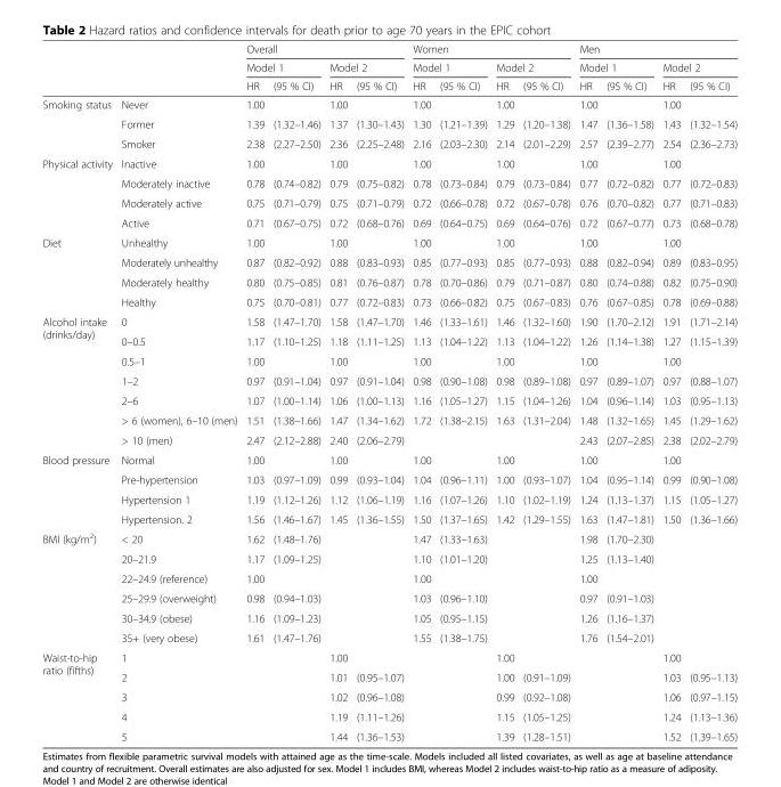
<table><thead><tr><td rowspan="3"></td><td rowspan="3"></td><td colspan="4">Overall</td><td colspan="4">Women</td><td colspan="4">Men</td></tr><tr><td colspan="2">Model 1</td><td colspan="2">Model 2</td><td colspan="2">Model 1</td><td colspan="2">Model 2</td><td colspan="2">Model 1</td><td colspan="2">Model 2</td></tr><tr><td>HR</td><td>(95 % CI)</td><td>HR</td><td>(95 % CI)</td><td>HR</td><td>(95 % CI)</td><td>HR</td><td>(95 % CI)</td><td>HR</td><td>(95 % CI)</td><td>HR</td><td>(95 % CI)</td></tr></thead><tbody><tr><td rowspan="3">Smoking status</td><td>Never</td><td>1.00</td><td></td><td>1.00</td><td></td><td>1.00</td><td></td><td>1.00</td><td></td><td>1.00</td><td></td><td>1.00</td><td></td></tr><tr><td>Former</td><td>1.39</td><td>(1.32–1.46)</td><td>1.37</td><td>(1.30–1.43)</td><td>1.30</td><td>(1.21–1.39)</td><td>1.29</td><td>(1.20–1.38)</td><td>1.47</td><td>(1.36–1.58)</td><td>1.43</td><td>(1.32–1.54)</td></tr><tr><td>Smoker</td><td>2.38</td><td>(2.27–2.50)</td><td>2.36</td><td>(2.25–2.48)</td><td>2.16</td><td>(2.03–2.30)</td><td>2.14</td><td>(2.01–2.29)</td><td>2.57</td><td>(2.39–2.77)</td><td>2.54</td><td>(2.36–2.73)</td></tr><tr><td rowspan="4">Physical activity</td><td>Inactive</td><td>1.00</td><td></td><td>1.00</td><td></td><td>1.00</td><td></td><td>1.00</td><td></td><td>1.00</td><td></td><td>1.00</td><td></td></tr><tr><td>Moderately inactive</td><td>0.78</td><td>(0.74–0.82)</td><td>0.79</td><td>(0.75–0.82)</td><td>0.78</td><td>(0.73–0.84)</td><td>0.79</td><td>(0.73–0.84)</td><td>0.77</td><td>(0.72–0.82)</td><td>0.77</td><td>(0.72–0.83)</td></tr><tr><td>Moderately active</td><td>0.75</td><td>(0.71–0.79)</td><td>0.75</td><td>(0.71–0.79)</td><td>0.72</td><td>(0.66–0.78)</td><td>0.72</td><td>(0.67–0.78)</td><td>0.76</td><td>(0.70–0.82)</td><td>0.77</td><td>(0.71–0.83)</td></tr><tr><td>Active</td><td>0.71</td><td>(0.67–0.75)</td><td>0.72</td><td>(0.68–0.76)</td><td>0.69</td><td>(0.64–0.75)</td><td>0.69</td><td>(0.64–0.76)</td><td>0.72</td><td>(0.67–0.77)</td><td>0.73</td><td>(0.68–0.78)</td></tr><tr><td rowspan="4">Diet</td><td>Unhealthy</td><td>1.00</td><td></td><td>1.00</td><td></td><td>1.00</td><td></td><td>1.00</td><td></td><td>1.00</td><td></td><td>1.00</td><td></td></tr><tr><td>Moderately unhealthy</td><td>0.87</td><td>(0.82–0.92)</td><td>0.88</td><td>(0.83–0.93)</td><td>0.85</td><td>(0.77–0.93)</td><td>0.85</td><td>(0.77–0.93)</td><td>0.88</td><td>(0.82–0.94)</td><td>0.89</td><td>(0.83–0.95)</td></tr><tr><td>Moderately healthy</td><td>0.80</td><td>(0.75–0.85)</td><td>0.81</td><td>(0.76–0.87)</td><td>0.78</td><td>(0.70–0.86)</td><td>0.79</td><td>(0.71–0.87)</td><td>0.80</td><td>(0.74–0.88)</td><td>0.82</td><td>(0.75–0.90)</td></tr><tr><td>Healthy</td><td>0.75</td><td>(0.70–0.81)</td><td>0.77</td><td>(0.72–0.83)</td><td>0.73</td><td>(0.66–0.82)</td><td>0.75</td><td>(0.67–0.83)</td><td>0.76</td><td>(0.67–0.85)</td><td>0.78</td><td>(0.69–0.88)</td></tr><tr><td rowspan="7">Alcohol intake (drinks/day)</td><td>0</td><td>1.58</td><td>(1.47–1.70)</td><td>1.58</td><td>(1.47–1.70)</td><td>1.46</td><td>(1.33–1.61)</td><td>1.46</td><td>(1.32–1.60)</td><td>1.90</td><td>(1.70–2.12)</td><td>1.91</td><td>(1.71–2.14)</td></tr><tr><td>0–0.5</td><td>1.17</td><td>(1.10–1.25)</td><td>1.18</td><td>(1.11–1.25)</td><td>1.13</td><td>(1.04–1.22)</td><td>1.13</td><td>(1.04–1.22)</td><td>1.26</td><td>(1.14–1.38)</td><td>1.27</td><td>(1.15–1.39)</td></tr><tr><td>0.5–1</td><td>1.00</td><td></td><td>1.00</td><td></td><td>1.00</td><td></td><td>1.00</td><td></td><td>1.00</td><td></td><td>1.00</td><td></td></tr><tr><td>1–2</td><td>0.97</td><td>(0.91–1.04)</td><td>0.97</td><td>(0.91–1.04)</td><td>0.98</td><td>(0.90–1.08)</td><td>0.98</td><td>(0.89–1.08)</td><td>0.97</td><td>(0.89–1.07)</td><td>0.97</td><td>(0.88–1.07)</td></tr><tr><td>2–6</td><td>1.07</td><td>(1.00–1.14)</td><td>1.06</td><td>(1.00–1.13)</td><td>1.16</td><td>(1.05–1.27)</td><td>1.15</td><td>(1.04–1.26)</td><td>1.04</td><td>(0.96–1.14)</td><td>1.03</td><td>(0.95–1.13)</td></tr><tr><td>&gt; 6 (women), 6–10 (men)</td><td>1.51</td><td>(1.38–1.66)</td><td>1.47</td><td>(1.34–1.62)</td><td>1.72</td><td>(1.38–2.15)</td><td>1.63</td><td>(1.31–2.04)</td><td>1.48</td><td>(1.32–1.65)</td><td>1.45</td><td>(1.29–1.62)</td></tr><tr><td>&gt; 10 (men)</td><td>2.47</td><td>(2.12–2.88)</td><td>2.40</td><td>(2.06–2.79)</td><td></td><td></td><td></td><td></td><td>2.43</td><td>(2.07–2.85)</td><td>2.38</td><td>(2.02–2.79)</td></tr><tr><td rowspan="4">Blood pressure</td><td>Normal</td><td>1.00</td><td></td><td>1.00</td><td></td><td>1.00</td><td></td><td>1.00</td><td></td><td>1.00</td><td></td><td>1.00</td><td></td></tr><tr><td>Pre-hypertension</td><td>1.03</td><td>(0.97–1.09)</td><td>0.99</td><td>(0.93–1.04)</td><td>1.04</td><td>(0.96–1.11)</td><td>1.00</td><td>(0.93–1.07)</td><td>1.04</td><td>(0.95–1.14)</td><td>0.99</td><td>(0.90–1.08)</td></tr><tr><td>Hypertension 1</td><td>1.19</td><td>(1.12–1.26)</td><td>1.12</td><td>(1.06–1.19)</td><td>1.16</td><td>(1.07–1.26)</td><td>1.10</td><td>(1.02–1.19)</td><td>1.24</td><td>(1.13–1.37)</td><td>1.15</td><td>(1.05–1.27)</td></tr><tr><td>Hypertension. 2</td><td>1.56</td><td>(1.46–1.67)</td><td>1.45</td><td>(1.36–1.55)</td><td>1.50</td><td>(1.37–1.65)</td><td>1.42</td><td>(1.29–1.55)</td><td>1.63</td><td>(1.47–1.81)</td><td>1.50</td><td>(1.36–1.66)</td></tr><tr><td rowspan="6">BMI (kg/m<sup>2</sup>)</td><td>&lt; 20</td><td>1.62</td><td>(1.48–1.76)</td><td></td><td></td><td>1.47</td><td>(1.33–1.63)</td><td></td><td></td><td>1.98</td><td>(1.70–2.30)</td><td></td><td></td></tr><tr><td>20–21.9</td><td>1.17</td><td>(1.09–1.25)</td><td></td><td></td><td>1.10</td><td>(1.01–1.20)</td><td></td><td></td><td>1.25</td><td>(1.13–1.40)</td><td></td><td></td></tr><tr><td>22–24.9 (reference)</td><td>1.00</td><td></td><td></td><td></td><td>1.00</td><td></td><td></td><td></td><td>1.00</td><td></td><td></td><td></td></tr><tr><td>25–29.9 (overweight)</td><td>0.98</td><td>(0.94–1.03)</td><td></td><td></td><td>1.03</td><td>(0.96–1.10)</td><td></td><td></td><td>0.97</td><td>(0.91–1.03)</td><td></td><td></td></tr><tr><td>30–34.9 (obese)</td><td>1.16</td><td>(1.09–1.23)</td><td></td><td></td><td>1.05</td><td>(0.95–1.15)</td><td></td><td></td><td>1.26</td><td>(1.16–1.37)</td><td></td><td></td></tr><tr><td>35+ (very obese)</td><td>1.61</td><td>(1.47–1.76)</td><td></td><td></td><td>1.55</td><td>(1.38–1.75)</td><td></td><td></td><td>1.76</td><td>(1.54–2.01)</td><td></td><td></td></tr><tr><td rowspan="5">Waist-to-hip ratio (fifths)</td><td>1</td><td></td><td></td><td>1.00</td><td></td><td></td><td></td><td>1.00</td><td></td><td></td><td></td><td>1.00</td><td></td></tr><tr><td>2</td><td></td><td></td><td>1.01</td><td>(0.95–1.07)</td><td></td><td></td><td>1.00</td><td>(0.91–1.09)</td><td></td><td></td><td>1.03</td><td>(0.95–1.13)</td></tr><tr><td>3</td><td></td><td></td><td>1.02</td><td>(0.96–1.08)</td><td></td><td></td><td>0.99</td><td>(0.92–1.08)</td><td></td><td></td><td>1.06</td><td>(0.97–1.15)</td></tr><tr><td>4</td><td></td><td></td><td>1.19</td><td>(1.11–1.26)</td><td></td><td></td><td>1.15</td><td>(1.05–1.25)</td><td></td><td></td><td>1.24</td><td>(1.13–1.36)</td></tr><tr><td>5</td><td></td><td></td><td>1.44</td><td>(1.36–1.53)</td><td></td><td></td><td>1.39</td><td>(1.28–1.51)</td><td></td><td></td><td>1.52</td><td>(1.39–1.65)</td></tr></tbody></table>